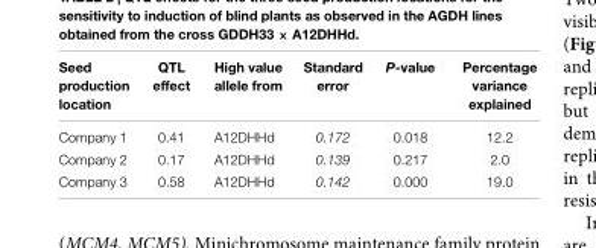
<table><thead><tr><td>Seed production location</td><td>QTL effect</td><td>High value allele from</td><td>Standard error</td><td>P-value</td><td>Percentage variance explained</td></tr></thead><tbody><tr><td>Company 1</td><td>0.41</td><td>A12DHHd</td><td>0.172</td><td>0.018</td><td>12.2</td></tr><tr><td>Company 2</td><td>0.17</td><td>A12DHHd</td><td>0.139</td><td>0.217</td><td>2.0</td></tr><tr><td>Company 3</td><td>0.58</td><td>A12DHHd</td><td>0.142</td><td>0.000</td><td>19.0</td></tr></tbody></table>